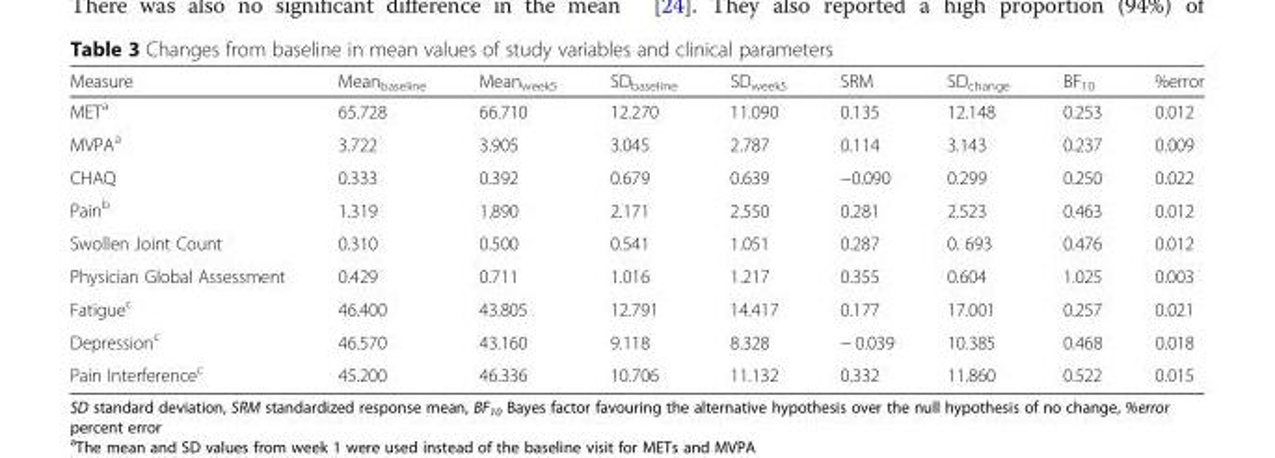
<table><thead><tr><td>Measure</td><td>Mean<sub>baseline</sub></td><td>Mean<sub>week5</sub></td><td>SD<sub>baseline</sub></td><td>SD<sub>week5</sub></td><td>SRM</td><td>SD<sub>change</sub></td><td>BF<sub>10</sub></td><td>%error</td></tr></thead><tbody><tr><td>MET<sup>a</sup></td><td>65.728</td><td>66.710</td><td>12.270</td><td>11.090</td><td>0.135</td><td>12.148</td><td>0.253</td><td>0.012</td></tr><tr><td>MVPA<sup>a</sup></td><td>3.722</td><td>3.905</td><td>3.045</td><td>2.787</td><td>0.114</td><td>3.143</td><td>0.237</td><td>0.009</td></tr><tr><td>CHAQ</td><td>0.333</td><td>0.392</td><td>0.679</td><td>0.639</td><td>−0.090</td><td>0.299</td><td>0.250</td><td>0.022</td></tr><tr><td>Pain<sup>b</sup></td><td>1.319</td><td>1.890</td><td>2.171</td><td>2.550</td><td>0.281</td><td>2.523</td><td>0.463</td><td>0.012</td></tr><tr><td>Swollen Joint Count</td><td>0.310</td><td>0.500</td><td>0.541</td><td>1.051</td><td>0.287</td><td>0. 693</td><td>0.476</td><td>0.012</td></tr><tr><td>Physician Global Assessment</td><td>0.429</td><td>0.711</td><td>1.016</td><td>1.217</td><td>0.355</td><td>0.604</td><td>1.025</td><td>0.003</td></tr><tr><td>Fatigue<sup>c</sup></td><td>46.400</td><td>43.805</td><td>12.791</td><td>14.417</td><td>0.177</td><td>17.001</td><td>0.257</td><td>0.021</td></tr><tr><td>Depression<sup>c</sup></td><td>46.570</td><td>43.160</td><td>9.118</td><td>8.328</td><td>− 0.039</td><td>10.385</td><td>0.468</td><td>0.018</td></tr><tr><td>Pain Interference<sup>c</sup></td><td>45.200</td><td>46.336</td><td>10.706</td><td>11.132</td><td>0.332</td><td>11.860</td><td>0.522</td><td>0.015</td></tr></tbody></table>